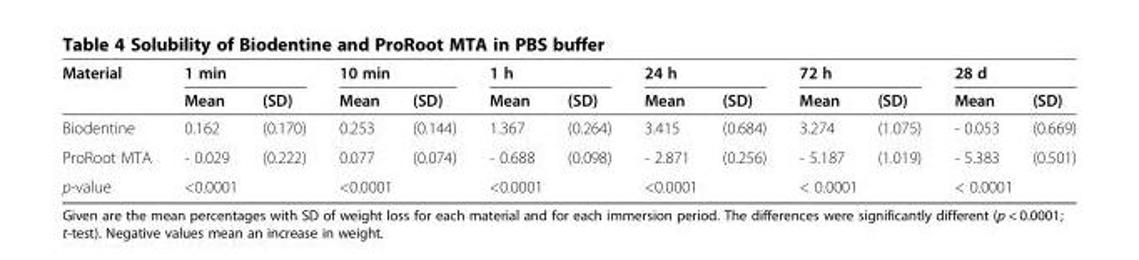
<table><thead><tr><td rowspan="2">Material</td><td colspan="2">1 min</td><td colspan="2">10 min</td><td colspan="2">1 h</td><td colspan="2">24 h</td><td colspan="2">72 h</td><td colspan="2">28 d</td></tr><tr><td>Mean</td><td>(SD)</td><td>Mean</td><td>(SD)</td><td>Mean</td><td>(SD)</td><td>Mean</td><td>(SD)</td><td>Mean</td><td>(SD)</td><td>Mean</td><td>(SD)</td></tr></thead><tbody><tr><td>Biodentine</td><td>0.162</td><td>(0.170)</td><td>0.253</td><td>(0.144)</td><td>1.367</td><td>(0.264)</td><td>3.415</td><td>(0.684)</td><td>3.274</td><td>(1.075)</td><td>- 0.053</td><td>(0.669)</td></tr><tr><td>ProRoot MTA</td><td>- 0.029</td><td>(0.222)</td><td>0.077</td><td>(0.074)</td><td>- 0.688</td><td>(0.098)</td><td>- 2.871</td><td>(0.256)</td><td>- 5.187</td><td>(1.019)</td><td>- 5.383</td><td>(0.501)</td></tr><tr><td>p-value</td><td colspan="2">&lt;0.0001</td><td colspan="2">&lt;0.0001</td><td colspan="2">&lt;0.0001</td><td colspan="2">&lt;0.0001</td><td colspan="2">&lt; 0.0001</td><td colspan="2">&lt; 0.0001</td></tr></tbody></table>